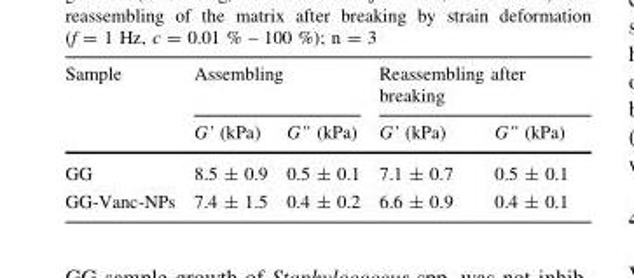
<table><thead><tr><td rowspan="2">Sample</td><td colspan="2">Assembling</td><td colspan="2">Reassembling after breaking</td></tr><tr><td>G’ (kPa)</td><td>G’’ (kPa)</td><td>G’ (kPa)</td><td>G’’ (kPa)</td></tr></thead><tbody><tr><td>GG</td><td>8.5 ± 0.9</td><td>0.5 ± 0.1</td><td>7.1 ± 0.7</td><td>0.5 ± 0.1</td></tr><tr><td>GG-Vanc-NPs</td><td>7.4 ± 1.5</td><td>0.4 ± 0.2</td><td>6.6 ± 0.9</td><td>0.4 ± 0.1</td></tr></tbody></table>